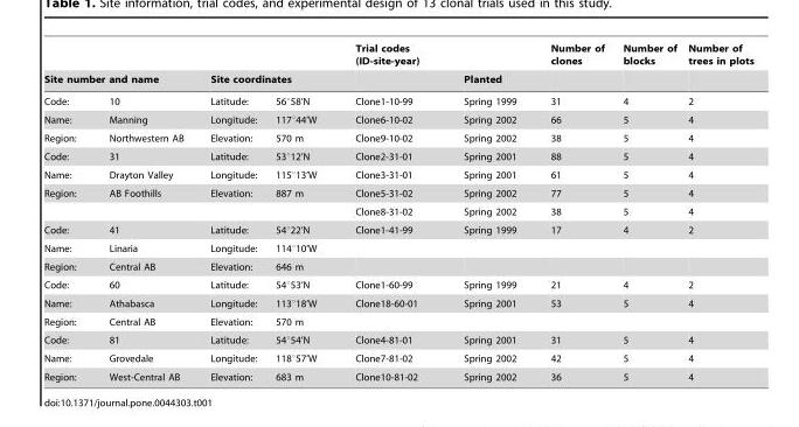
<table><thead><tr><td></td><td></td><td></td><td></td><td rowspan="2">Trial codes (ID-site-year)</td><td rowspan="2">Planted</td><td rowspan="2">Number of clones</td><td rowspan="2">Number of blocks</td><td rowspan="2">Number of trees in plots</td></tr><tr><td colspan="2">Site number and name</td><td colspan="2">Site coordinates</td></tr></thead><tbody><tr><td>Code:</td><td>10</td><td>Latitude:</td><td>56°58’N</td><td>Clone1-10-99</td><td>Spring 1999</td><td>31</td><td>4</td><td>2</td></tr><tr><td>Name:</td><td>Manning</td><td>Longitude:</td><td>117°44’W</td><td>Clone6-10-02</td><td>Spring 2002</td><td>66</td><td>5</td><td>4</td></tr><tr><td>Region:</td><td>Northwestern AB</td><td>Elevation:</td><td>570 m</td><td>Clone9-10-02</td><td>Spring 2002</td><td>38</td><td>5</td><td>4</td></tr><tr><td>Code:</td><td>31</td><td>Latitude:</td><td>53°12’N</td><td>Clone2-31-01</td><td>Spring 2001</td><td>88</td><td>5</td><td>4</td></tr><tr><td>Name:</td><td>Drayton Valley</td><td>Longitude:</td><td>115°13’W</td><td>Clone3-31-01</td><td>Spring 2001</td><td>61</td><td>5</td><td>4</td></tr><tr><td rowspan="2">Region:</td><td>AB Foothills</td><td>Elevation:</td><td>887 m</td><td>Clone5-31-02</td><td>Spring 2002</td><td>77</td><td>5</td><td>4</td></tr><tr><td></td><td></td><td></td><td>Clone8-31-02</td><td>Spring 2002</td><td>38</td><td>5</td><td>4</td></tr><tr><td>Code:</td><td>41</td><td>Latitude:</td><td>54°22’N</td><td>Clone1-41-99</td><td>Spring 1999</td><td>17</td><td>4</td><td>2</td></tr><tr><td>Name:</td><td>Linaria</td><td>Longitude:</td><td>114°10’W</td><td></td><td></td><td></td><td></td><td></td></tr><tr><td>Region:</td><td>Central AB</td><td>Elevation:</td><td>646 m</td><td></td><td></td><td></td><td></td><td></td></tr><tr><td>Code:</td><td>60</td><td>Latitude:</td><td>54°53’N</td><td>Clone1-60-99</td><td>Spring 1999</td><td>21</td><td>4</td><td>2</td></tr><tr><td>Name:</td><td>Athabasca</td><td>Longitude:</td><td>113°18’W</td><td>Clone18-60-01</td><td>Spring 2001</td><td>53</td><td>5</td><td>4</td></tr><tr><td>Region:</td><td>Central AB</td><td>Elevation:</td><td>570 m</td><td></td><td></td><td></td><td></td><td></td></tr><tr><td>Code:</td><td>81</td><td>Latitude:</td><td>54°54’N</td><td>Clone4-81-01</td><td>Spring 2001</td><td>31</td><td>5</td><td>4</td></tr><tr><td>Name:</td><td>Grovedale</td><td>Longitude:</td><td>118°57’W</td><td>Clone7-81-02</td><td>Spring 2002</td><td>42</td><td>5</td><td>4</td></tr><tr><td>Region:</td><td>West-Central AB</td><td>Elevation:</td><td>683 m</td><td>Clone10-81-02</td><td>Spring 2002</td><td>36</td><td>5</td><td>4</td></tr></tbody></table>